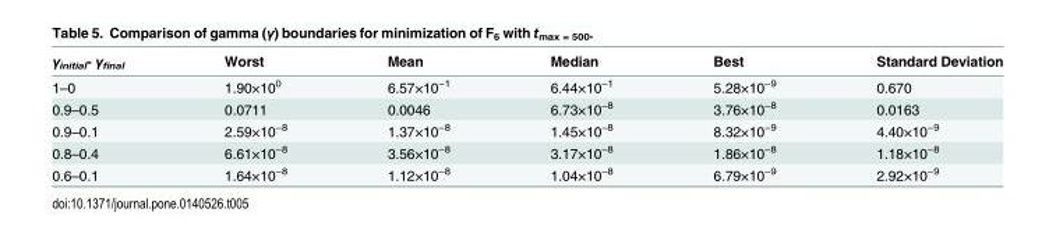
<table><thead><tr><td>γ<sub>initial</sub>- γ<sub>final</sub></td><td>Worst</td><td>Mean</td><td>Median</td><td>Best</td><td>Standard Deviation</td></tr></thead><tbody><tr><td>1–0</td><td>1.90×10<sup>0</sup></td><td>6.57×10<sup>−1</sup></td><td>6.44×10<sup>−1</sup></td><td>5.28×10<sup>−9</sup></td><td>0.670</td></tr><tr><td>0.9–0.5</td><td>0.0711</td><td>0.0046</td><td>6.73×10<sup>−8</sup></td><td>3.76×10<sup>−8</sup></td><td>0.0163</td></tr><tr><td>0.9–0.1</td><td>2.59×10<sup>−8</sup></td><td>1.37×10<sup>−8</sup></td><td>1.45×10<sup>−8</sup></td><td>8.32×10<sup>−9</sup></td><td>4.40×10<sup>−9</sup></td></tr><tr><td>0.8–0.4</td><td>6.61×10<sup>−8</sup></td><td>3.56×10<sup>−8</sup></td><td>3.17×10<sup>−8</sup></td><td>1.86×10<sup>−8</sup></td><td>1.18×10<sup>−8</sup></td></tr><tr><td>0.6–0.1</td><td>1.64×10<sup>−8</sup></td><td>1.12×10<sup>−8</sup></td><td>1.04×10<sup>−8</sup></td><td>6.79×10<sup>−9</sup></td><td>2.92×10<sup>−9</sup></td></tr></tbody></table>